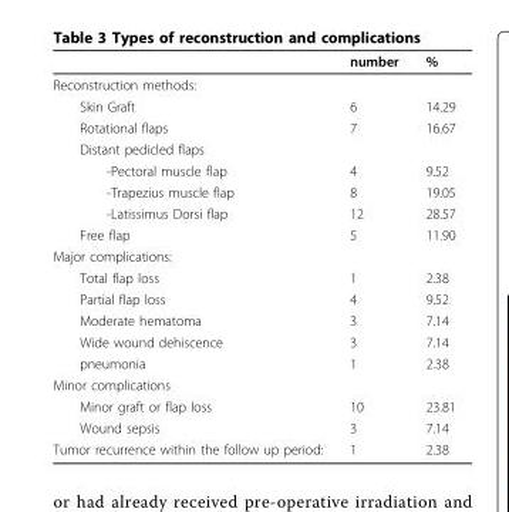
<table><thead><tr><td></td><td>number</td><td>%</td></tr></thead><tbody><tr><td colspan="3">Reconstruction methods:</td></tr><tr><td>Skin Graft</td><td>6</td><td>14.29</td></tr><tr><td>Rotational flaps</td><td>7</td><td>16.67</td></tr><tr><td colspan="3">Distant pedicled flaps</td></tr><tr><td>-Pectoral muscle flap</td><td>4</td><td>9.52</td></tr><tr><td>-Trapezius muscle flap</td><td>8</td><td>19.05</td></tr><tr><td>-Latissimus Dorsi flap</td><td>12</td><td>28.57</td></tr><tr><td>Free flap</td><td>5</td><td>11.90</td></tr><tr><td colspan="3">Major complications:</td></tr><tr><td>Total flap loss</td><td>1</td><td>2.38</td></tr><tr><td>Partial flap loss</td><td>4</td><td>9.52</td></tr><tr><td>Moderate hematoma</td><td>3</td><td>7.14</td></tr><tr><td>Wide wound dehiscence</td><td>3</td><td>7.14</td></tr><tr><td>pneumonia</td><td>1</td><td>2.38</td></tr><tr><td colspan="3">Minor complications</td></tr><tr><td>Minor graft or flap loss</td><td>10</td><td>23.81</td></tr><tr><td>Wound sepsis</td><td>3</td><td>7.14</td></tr><tr><td>Tumor recurrence within the follow up period:</td><td>1</td><td>2.38</td></tr></tbody></table>